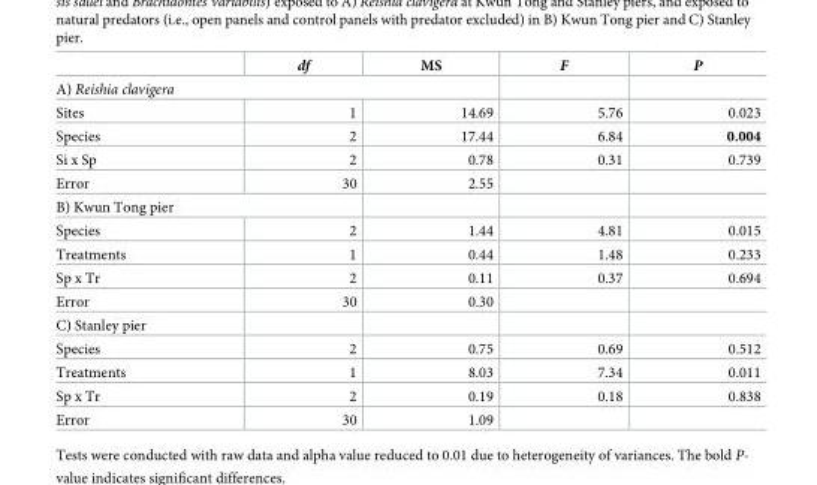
<table><thead><tr><td></td><td>df</td><td>MS</td><td>F</td><td>P</td></tr></thead><tbody><tr><td colspan="5">A) Reishia clavigera</td></tr><tr><td>Sites</td><td>1</td><td>14.69</td><td>5.76</td><td>0.023</td></tr><tr><td>Species</td><td>2</td><td>17.44</td><td>6.84</td><td>0.004</td></tr><tr><td>Si x Sp</td><td>2</td><td>0.78</td><td>0.31</td><td>0.739</td></tr><tr><td>Error</td><td>30</td><td>2.55</td><td></td><td></td></tr><tr><td colspan="5">B) Kwun Tong pier</td></tr><tr><td>Species</td><td>2</td><td>1.44</td><td>4.81</td><td>0.015</td></tr><tr><td>Treatments</td><td>1</td><td>0.44</td><td>1.48</td><td>0.233</td></tr><tr><td>Sp x Tr</td><td>2</td><td>0.11</td><td>0.37</td><td>0.694</td></tr><tr><td>Error</td><td>30</td><td>0.30</td><td></td><td></td></tr><tr><td colspan="5">C) Stanley pier</td></tr><tr><td>Species</td><td>2</td><td>0.75</td><td>0.69</td><td>0.512</td></tr><tr><td>Treatments</td><td>1</td><td>8.03</td><td>7.34</td><td>0.011</td></tr><tr><td>Sp x Tr</td><td>2</td><td>0.19</td><td>0.18</td><td>0.838</td></tr><tr><td>Error</td><td>30</td><td>1.09</td><td></td><td></td></tr></tbody></table>